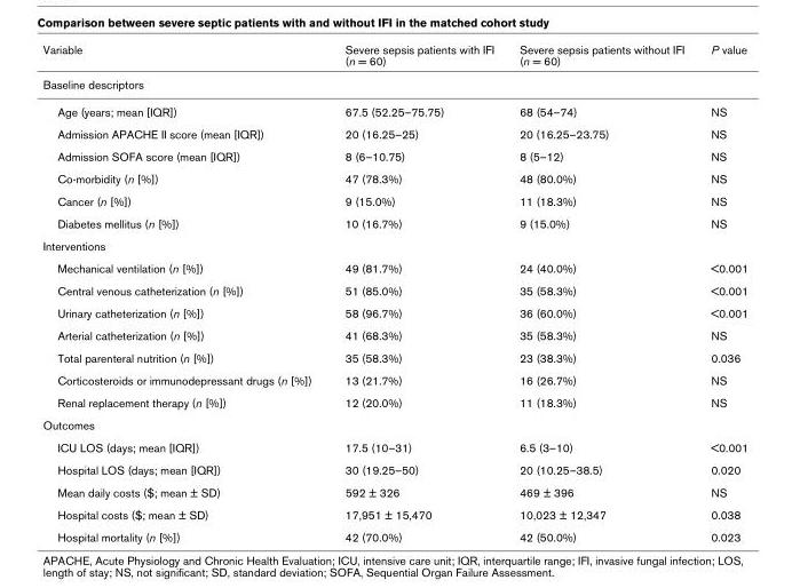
<table><thead><tr><td>Variable</td><td>Severe sepsis patients with IFI (n = 60)</td><td>Severe sepsis patients without IFI (n = 60)</td><td>P value</td></tr></thead><tbody><tr><td colspan="4">Baseline descriptors</td></tr><tr><td>Age (years; mean [IQR])</td><td>67.5 (52.25–75.75)</td><td>68 (54–74)</td><td>NS</td></tr><tr><td>Admission APACHE II score (mean [IQR])</td><td>20 (16.25–25)</td><td>20 (16.25–23.75)</td><td>NS</td></tr><tr><td>Admission SOFA score (mean [IQR])</td><td>8 (6–10.75)</td><td>8 (5–12)</td><td>NS</td></tr><tr><td>Co-morbidity (n [%])</td><td>47 (78.3%)</td><td>48 (80.0%)</td><td>NS</td></tr><tr><td>Cancer (n [%])</td><td>9 (15.0%)</td><td>11 (18.3%)</td><td>NS</td></tr><tr><td>Diabetes mellitus (n [%])</td><td>10 (16.7%)</td><td>9 (15.0%)</td><td>NS</td></tr><tr><td colspan="4">Interventions</td></tr><tr><td>Mechanical ventilation (n [%])</td><td>49 (81.7%)</td><td>24 (40.0%)</td><td>&lt;0.001</td></tr><tr><td>Central venous catheterization (n [%])</td><td>51 (85.0%)</td><td>35 (58.3%)</td><td>&lt;0.001</td></tr><tr><td>Urinary catheterization (n [%])</td><td>58 (96.7%)</td><td>36 (60.0%)</td><td>&lt;0.001</td></tr><tr><td>Arterial catheterization (n [%])</td><td>41 (68.3%)</td><td>35 (58.3%)</td><td>NS</td></tr><tr><td>Total parenteral nutrition (n [%])</td><td>35 (58.3%)</td><td>23 (38.3%)</td><td>0.036</td></tr><tr><td>Corticosteroids or immunodepressant drugs (n [%])</td><td>13 (21.7%)</td><td>16 (26.7%)</td><td>NS</td></tr><tr><td>Renal replacement therapy (n [%])</td><td>12 (20.0%)</td><td>11 (18.3%)</td><td>NS</td></tr><tr><td colspan="4">Outcomes</td></tr><tr><td>ICU LOS (days; mean [IQR])</td><td>17.5 (10–31)</td><td>6.5 (3–10)</td><td>&lt;0.001</td></tr><tr><td>Hospital LOS (days; mean [IQR])</td><td>30 (19.25–50)</td><td>20 (10.25–38.5)</td><td>0.020</td></tr><tr><td>Mean daily costs ($; mean ± SD)</td><td>592 ± 326</td><td>469 ± 396</td><td>NS</td></tr><tr><td>Hospital costs ($; mean ± SD)</td><td>17,951 ± 15,470</td><td>10,023 ± 12,347</td><td>0.038</td></tr><tr><td>Hospital mortality (n [%])</td><td>42 (70.0%)</td><td>42 (50.0%)</td><td>0.023</td></tr></tbody></table>